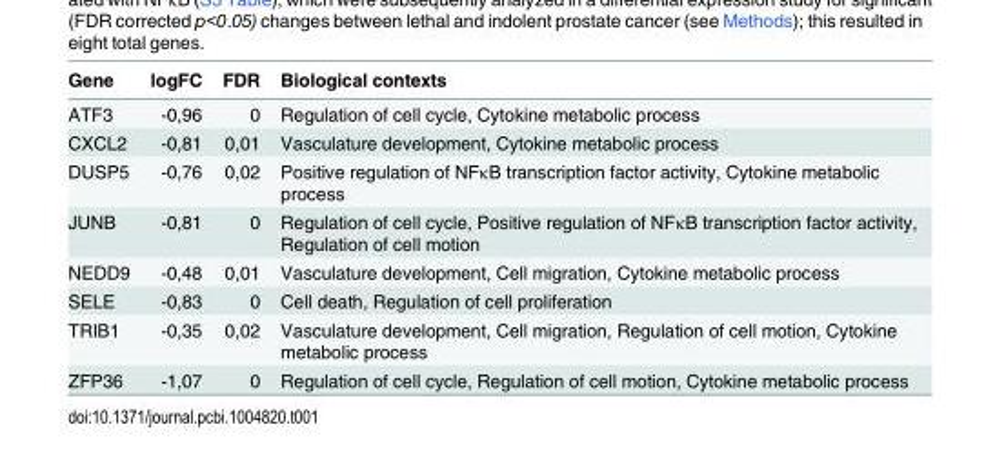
<table><thead><tr><td>Gene</td><td>logFC</td><td>FDR</td><td>Biological contexts</td></tr></thead><tbody><tr><td>ATF3</td><td>-0,96</td><td>0</td><td>Regulation of cell cycle, Cytokine metabolic process</td></tr><tr><td>CXCL2</td><td>-0,81</td><td>0,01</td><td>Vasculature development, Cytokine metabolic process</td></tr><tr><td>DUSP5</td><td>-0,76</td><td>0,02</td><td>Positive regulation of NFκB transcription factor activity, Cytokine metabolic process</td></tr><tr><td>JUNB</td><td>-0,81</td><td>0</td><td>Regulation of cell cycle, Positive regulation of NFκB transcription factor activity, Regulation of cell motion</td></tr><tr><td>NEDD9</td><td>-0,48</td><td>0,01</td><td>Vasculature development, Cell migration, Cytokine metabolic process</td></tr><tr><td>SELE</td><td>-0,83</td><td>0</td><td>Cell death, Regulation of cell proliferation</td></tr><tr><td>TRIB1</td><td>-0,35</td><td>0,02</td><td>Vasculature development, Cell migration, Regulation of cell motion, Cytokine metabolic process</td></tr><tr><td>ZFP36</td><td>-1,07</td><td>0</td><td>Regulation of cell cycle, Regulation of cell motion, Cytokine metabolic process</td></tr></tbody></table>